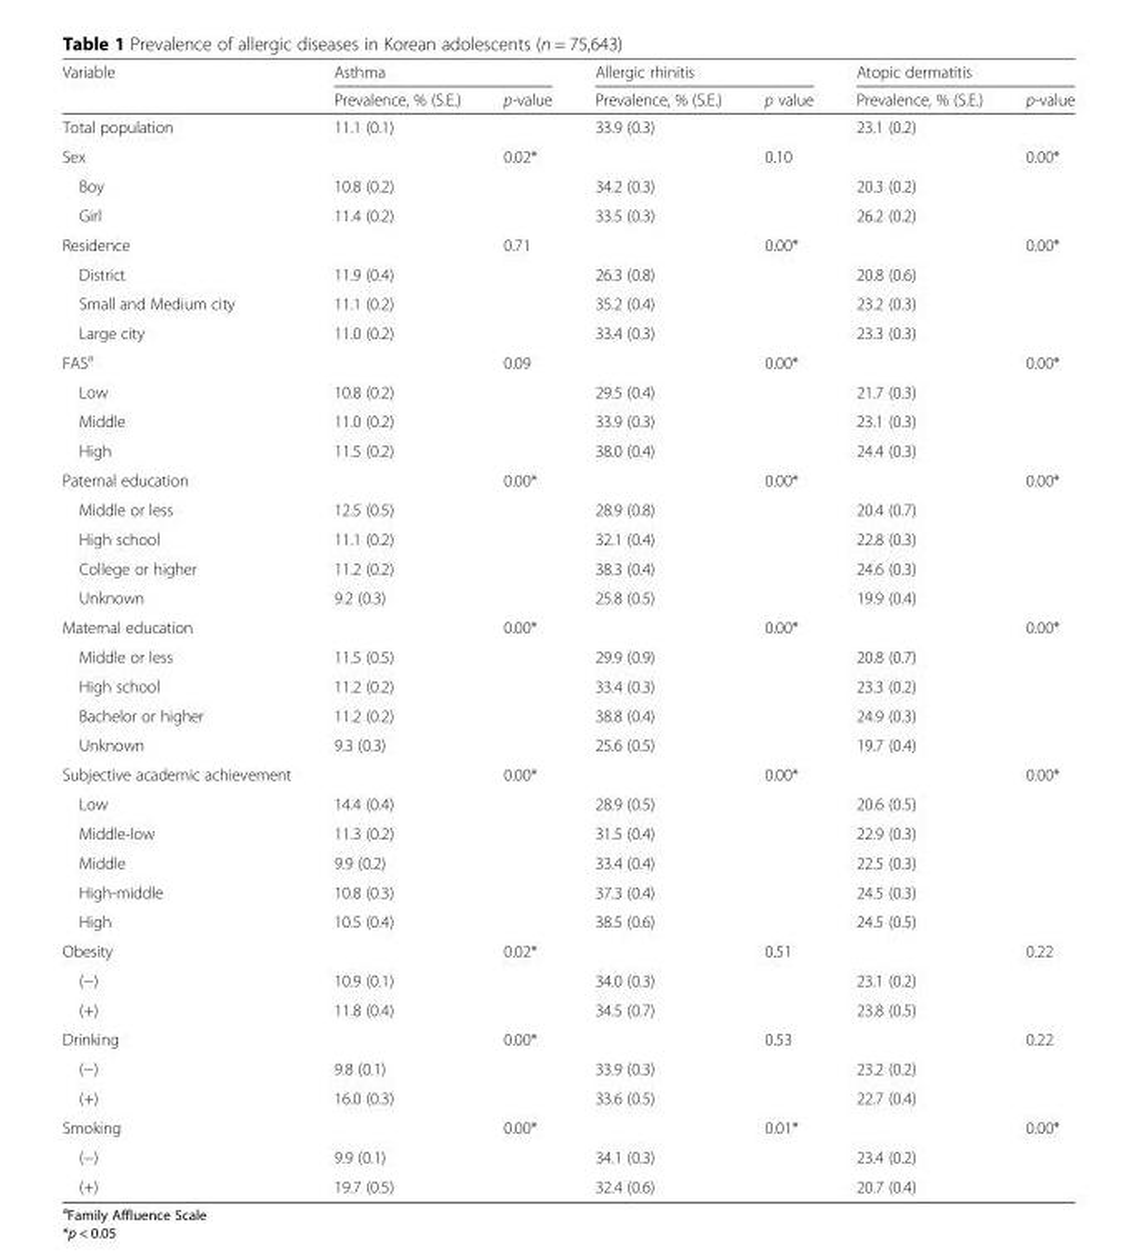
<table><thead><tr><td rowspan="2">Variable</td><td colspan="2">Asthma</td><td colspan="2">Allergic rhinitis</td><td colspan="2">Atopic dermatitis</td></tr><tr><td>Prevalence, % (S.E.)</td><td>p-value</td><td>Prevalence, % (S.E.)</td><td>p value</td><td>Prevalence, % (S.E.)</td><td>p-value</td></tr></thead><tbody><tr><td>Total population</td><td>11.1 (0.1)</td><td></td><td>33.9 (0.3)</td><td></td><td>23.1 (0.2)</td><td></td></tr><tr><td>Sex</td><td></td><td>0.02*</td><td></td><td>0.10</td><td></td><td>0.00*</td></tr><tr><td>Boy</td><td>10.8 (0.2)</td><td></td><td>34.2 (0.3)</td><td></td><td>20.3 (0.2)</td><td></td></tr><tr><td>Girl</td><td>11.4 (0.2)</td><td></td><td>33.5 (0.3)</td><td></td><td>26.2 (0.2)</td><td></td></tr><tr><td>Residence</td><td></td><td>0.71</td><td></td><td>0.00*</td><td></td><td>0.00*</td></tr><tr><td>District</td><td>11.9 (0.4)</td><td></td><td>26.3 (0.8)</td><td></td><td>20.8 (0.6)</td><td></td></tr><tr><td>Small and Medium city</td><td>11.1 (0.2)</td><td></td><td>35.2 (0.4)</td><td></td><td>23.2 (0.3)</td><td></td></tr><tr><td>Large city</td><td>11.0 (0.2)</td><td></td><td>33.4 (0.3)</td><td></td><td>23.3 (0.3)</td><td></td></tr><tr><td>FAS<sup>a</sup></td><td></td><td>0.09</td><td></td><td>0.00*</td><td></td><td>0.00*</td></tr><tr><td>Low</td><td>10.8 (0.2)</td><td></td><td>29.5 (0.4)</td><td></td><td>21.7 (0.3)</td><td></td></tr><tr><td>Middle</td><td>11.0 (0.2)</td><td></td><td>33.9 (0.3)</td><td></td><td>23.1 (0.3)</td><td></td></tr><tr><td>High</td><td>11.5 (0.2)</td><td></td><td>38.0 (0.4)</td><td></td><td>24.4 (0.3)</td><td></td></tr><tr><td>Paternal education</td><td></td><td>0.00*</td><td></td><td>0.00*</td><td></td><td>0.00*</td></tr><tr><td>Middle or less</td><td>12.5 (0.5)</td><td></td><td>28.9 (0.8)</td><td></td><td>20.4 (0.7)</td><td></td></tr><tr><td>High school</td><td>11.1 (0.2)</td><td></td><td>32.1 (0.4)</td><td></td><td>22.8 (0.3)</td><td></td></tr><tr><td>College or higher</td><td>11.2 (0.2)</td><td></td><td>38.3 (0.4)</td><td></td><td>24.6 (0.3)</td><td></td></tr><tr><td>Unknown</td><td>9.2 (0.3)</td><td></td><td>25.8 (0.5)</td><td></td><td>19.9 (0.4)</td><td></td></tr><tr><td>Maternal education</td><td></td><td>0.00*</td><td></td><td>0.00*</td><td></td><td>0.00*</td></tr><tr><td>Middle or less</td><td>11.5 (0.5)</td><td></td><td>29.9 (0.9)</td><td></td><td>20.8 (0.7)</td><td></td></tr><tr><td>High school</td><td>11.2 (0.2)</td><td></td><td>33.4 (0.3)</td><td></td><td>23.3 (0.2)</td><td></td></tr><tr><td>Bachelor or higher</td><td>11.2 (0.2)</td><td></td><td>38.8 (0.4)</td><td></td><td>24.9 (0.3)</td><td></td></tr><tr><td>Unknown</td><td>9.3 (0.3)</td><td></td><td>25.6 (0.5)</td><td></td><td>19.7 (0.4)</td><td></td></tr><tr><td>Subjective academic achievement</td><td></td><td>0.00*</td><td></td><td>0.00*</td><td></td><td>0.00*</td></tr><tr><td>Low</td><td>14.4 (0.4)</td><td></td><td>28.9 (0.5)</td><td></td><td>20.6 (0.5)</td><td></td></tr><tr><td>Middle-low</td><td>11.3 (0.2)</td><td></td><td>31.5 (0.4)</td><td></td><td>22.9 (0.3)</td><td></td></tr><tr><td>Middle</td><td>9.9 (0.2)</td><td></td><td>33.4 (0.4)</td><td></td><td>22.5 (0.3)</td><td></td></tr><tr><td>High-middle</td><td>10.8 (0.3)</td><td></td><td>37.3 (0.4)</td><td></td><td>24.5 (0.3)</td><td></td></tr><tr><td>High</td><td>10.5 (0.4)</td><td></td><td>38.5 (0.6)</td><td></td><td>24.5 (0.5)</td><td></td></tr><tr><td>Obesity</td><td></td><td>0.02*</td><td></td><td>0.51</td><td></td><td>0.22</td></tr><tr><td>(−)</td><td>10.9 (0.1)</td><td></td><td>34.0 (0.3)</td><td></td><td>23.1 (0.2)</td><td></td></tr><tr><td>(+)</td><td>11.8 (0.4)</td><td></td><td>34.5 (0.7)</td><td></td><td>23.8 (0.5)</td><td></td></tr><tr><td>Drinking</td><td></td><td>0.00*</td><td></td><td>0.53</td><td></td><td>0.22</td></tr><tr><td>(−)</td><td>9.8 (0.1)</td><td></td><td>33.9 (0.3)</td><td></td><td>23.2 (0.2)</td><td></td></tr><tr><td>(+)</td><td>16.0 (0.3)</td><td></td><td>33.6 (0.5)</td><td></td><td>22.7 (0.4)</td><td></td></tr><tr><td>Smoking</td><td></td><td>0.00*</td><td></td><td>0.01*</td><td></td><td>0.00*</td></tr><tr><td>(−)</td><td>9.9 (0.1)</td><td></td><td>34.1 (0.3)</td><td></td><td>23.4 (0.2)</td><td></td></tr><tr><td>(+)</td><td>19.7 (0.5)</td><td></td><td>32.4 (0.6)</td><td></td><td>20.7 (0.4)</td><td></td></tr></tbody></table>